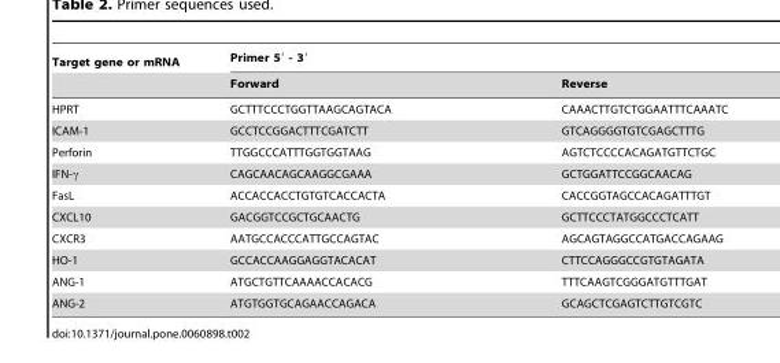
<table><thead><tr><td rowspan="2">Target gene or mRNA</td><td colspan="2">Primer 5′ - 3′</td></tr><tr><td>Forward</td><td>Reverse</td></tr></thead><tbody><tr><td>HPRT</td><td>GCTTTCCCTGGTTAAGCAGTACA</td><td>CAAACTTGTCTGGAATTTCAAATC</td></tr><tr><td>ICAM-1</td><td>GCCTCCGGACTTTCGATCTT</td><td>GTCAGGGGTGTCGAGCTTTG</td></tr><tr><td>Perforin</td><td>TTGGCCCATTTGGTGGTAAG</td><td>AGTCTCCCCACAGATGTTCTGC</td></tr><tr><td>IFN-γ</td><td>CAGCAACAGCAAGGCGAAA</td><td>GCTGGATTCCGGCAACAG</td></tr><tr><td>FasL</td><td>ACCACCACCTGTGTCACCACTA</td><td>CACCGGTAGCCACAGATTTGT</td></tr><tr><td>CXCL10</td><td>GACGGTCCGCTGCAACTG</td><td>GCTTCCCTATGGCCCTCATT</td></tr><tr><td>CXCR3</td><td>AATGCCACCCATTGCCAGTAC</td><td>AGCAGTAGGCCATGACCAGAAG</td></tr><tr><td>HO-1</td><td>GCCACCAAGGAGGTACACAT</td><td>CTTCCAGGGCCGTGTAGATA</td></tr><tr><td>ANG-1</td><td>ATGCTGTTCAAAACCACACG</td><td>TTTCAAGTCGGGATGTTTGAT</td></tr><tr><td>ANG-2</td><td>ATGTGGTGCAGAACCAGACA</td><td>GCAGCTCGAGTCTTGTCGTC</td></tr></tbody></table>